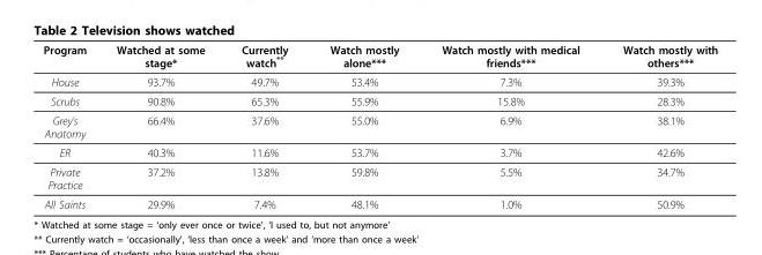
<table><thead><tr><td>Program</td><td>Watched at some stage*</td><td>Currently watch**</td><td>Watch mostly alone***</td><td>Watch mostly with medical friends***</td><td>Watch mostly with others***</td></tr></thead><tbody><tr><td>House</td><td>93.7%</td><td>49.7%</td><td>53.4%</td><td>7.3%</td><td>39.3%</td></tr><tr><td>Scrubs</td><td>90.8%</td><td>65.3%</td><td>55.9%</td><td>15.8%</td><td>28.3%</td></tr><tr><td>Grey’s Anatomy</td><td>66.4%</td><td>37.6%</td><td>55.0%</td><td>6.9%</td><td>38.1%</td></tr><tr><td>ER</td><td>40.3%</td><td>11.6%</td><td>53.7%</td><td>3.7%</td><td>42.6%</td></tr><tr><td>Private Practice</td><td>37.2%</td><td>13.8%</td><td>59.8%</td><td>5.5%</td><td>34.7%</td></tr><tr><td>All Saints</td><td>29.9%</td><td>7.4%</td><td>48.1%</td><td>1.0%</td><td>50.9%</td></tr></tbody></table>